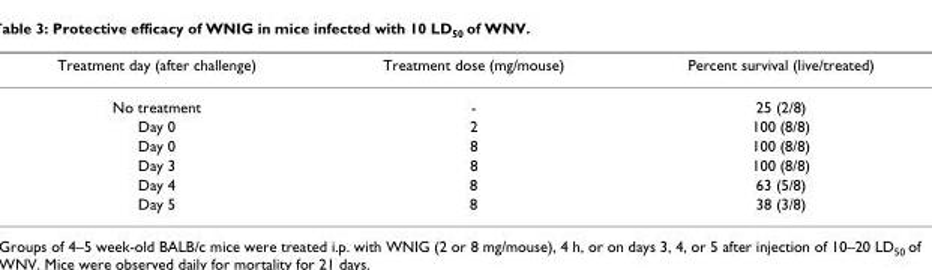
<table><thead><tr><td>Treatment day (after challenge)</td><td>Treatment dose (mg/mouse)</td><td>Percent survival (live/treated)</td></tr></thead><tbody><tr><td>No treatment</td><td>-</td><td>25 (2/8)</td></tr><tr><td>Day 0</td><td>2</td><td>100 (8/8)</td></tr><tr><td>Day 0</td><td>8</td><td>100 (8/8)</td></tr><tr><td>Day 3</td><td>8</td><td>100 (8/8)</td></tr><tr><td>Day 4</td><td>8</td><td>63 (5/8)</td></tr><tr><td>Day 5</td><td>8</td><td>38 (3/8)</td></tr></tbody></table>